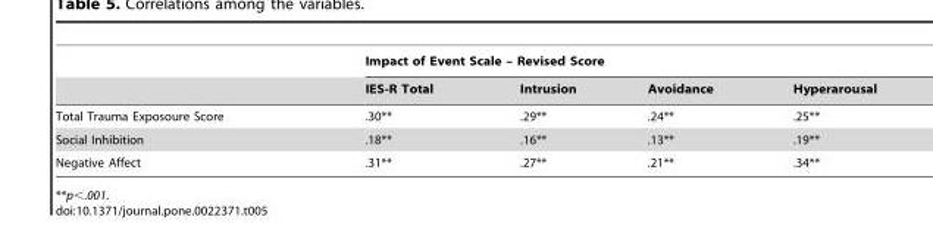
<table><thead><tr><td rowspan="2"></td><td colspan="4">Impact of Event Scale – Revised Score</td></tr><tr><td>IES-R Total</td><td>Intrusion</td><td>Avoidance</td><td>Hyperarousal</td></tr></thead><tbody><tr><td>Total Trauma Exposoure Score</td><td>.30**</td><td>.29**</td><td>.24**</td><td>.25**</td></tr><tr><td>Social Inhibition</td><td>.18**</td><td>.16**</td><td>.13**</td><td>.19**</td></tr><tr><td>Negative Affect</td><td>.31**</td><td>.27**</td><td>.21**</td><td>.34**</td></tr></tbody></table>